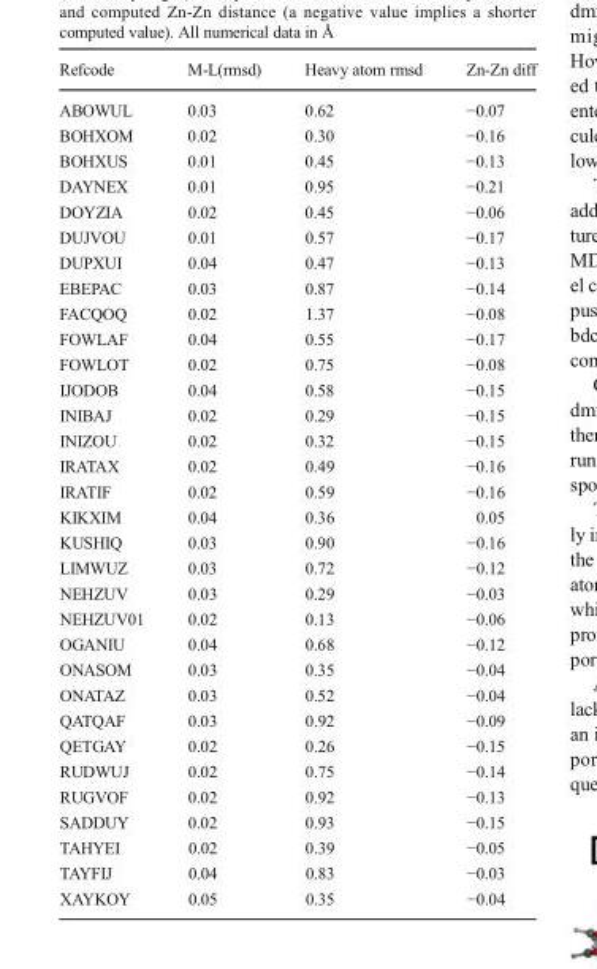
<table><thead><tr><td>Refcode</td><td>M-L(rmsd)</td><td>Heavy atom rmsd</td><td>Zn-Zn diff</td></tr></thead><tbody><tr><td>ABOWUL</td><td>0.03</td><td>0.62</td><td>−0.07</td></tr><tr><td>BOHXOM</td><td>0.02</td><td>0.30</td><td>−0.16</td></tr><tr><td>BOHXUS</td><td>0.01</td><td>0.45</td><td>−0.13</td></tr><tr><td>DAYNEX</td><td>0.01</td><td>0.95</td><td>−0.21</td></tr><tr><td>DOYZIA</td><td>0.02</td><td>0.45</td><td>−0.06</td></tr><tr><td>DUJVOU</td><td>0.01</td><td>0.57</td><td>−0.17</td></tr><tr><td>DUPXUI</td><td>0.04</td><td>0.47</td><td>−0.13</td></tr><tr><td>EBEPAC</td><td>0.03</td><td>0.87</td><td>−0.14</td></tr><tr><td>FACQOQ</td><td>0.02</td><td>1.37</td><td>−0.08</td></tr><tr><td>FOWLAF</td><td>0.04</td><td>0.55</td><td>−0.17</td></tr><tr><td>FOWLOT</td><td>0.02</td><td>0.75</td><td>−0.08</td></tr><tr><td>IJODOB</td><td>0.04</td><td>0.58</td><td>−0.15</td></tr><tr><td>INIBAJ</td><td>0.02</td><td>0.29</td><td>−0.15</td></tr><tr><td>INIZOU</td><td>0.02</td><td>0.32</td><td>−0.15</td></tr><tr><td>IRATAX</td><td>0.02</td><td>0.49</td><td>−0.16</td></tr><tr><td>IRATIF</td><td>0.02</td><td>0.59</td><td>−0.16</td></tr><tr><td>KIKXIM</td><td>0.04</td><td>0.36</td><td>0.05</td></tr><tr><td>KUSHIQ</td><td>0.03</td><td>0.90</td><td>−0.16</td></tr><tr><td>LIMWUZ</td><td>0.03</td><td>0.72</td><td>−0.12</td></tr><tr><td>NEHZUV</td><td>0.03</td><td>0.29</td><td>−0.03</td></tr><tr><td>NEHZUV01</td><td>0.02</td><td>0.13</td><td>−0.06</td></tr><tr><td>OGANIU</td><td>0.04</td><td>0.68</td><td>−0.12</td></tr><tr><td>ONASOM</td><td>0.03</td><td>0.35</td><td>−0.04</td></tr><tr><td>ONATAZ</td><td>0.03</td><td>0.52</td><td>−0.04</td></tr><tr><td>QATQAF</td><td>0.03</td><td>0.92</td><td>−0.09</td></tr><tr><td>QETGAY</td><td>0.02</td><td>0.26</td><td>−0.15</td></tr><tr><td>RUDWUJ</td><td>0.02</td><td>0.75</td><td>−0.14</td></tr><tr><td>RUGVOF</td><td>0.02</td><td>0.92</td><td>−0.13</td></tr><tr><td>SADDUY</td><td>0.02</td><td>0.93</td><td>−0.15</td></tr><tr><td>TAHYEI</td><td>0.02</td><td>0.39</td><td>−0.05</td></tr><tr><td>TAYFIJ</td><td>0.04</td><td>0.83</td><td>−0.03</td></tr><tr><td>XAYKOY</td><td>0.05</td><td>0.35</td><td>−0.04</td></tr></tbody></table>